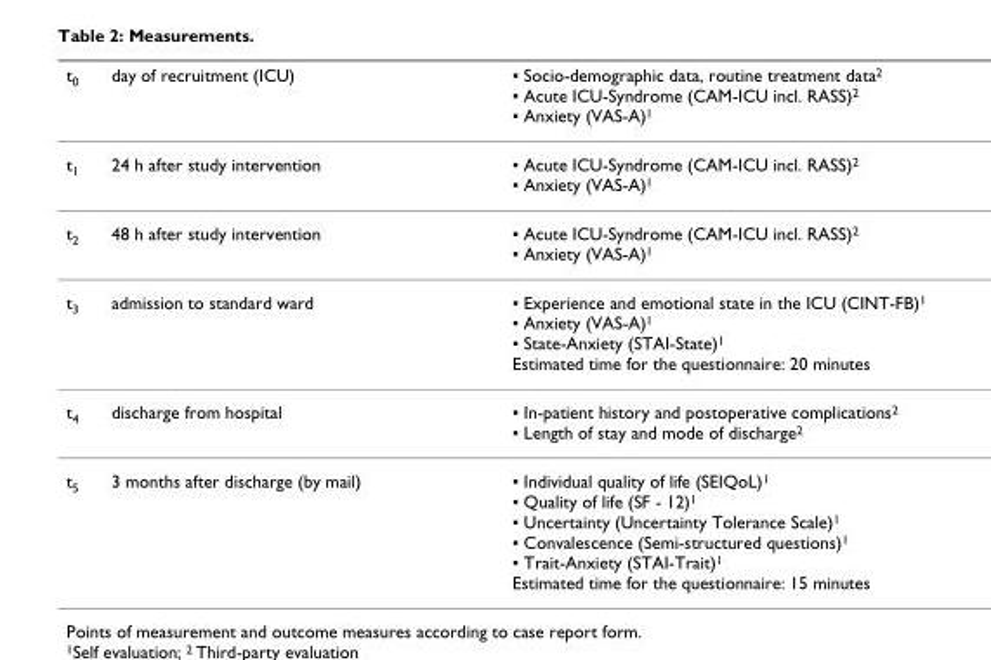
<table><thead><tr><td>t<sub>0</sub></td><td>day of recruitment (ICU)</td><td>▪ Socio-demographic data, routine treatment data<sup>2</sup> ▪ Acute ICU-Syndrome (CAM-ICU incl. RASS)<sup>2</sup> ▪ Anxiety (VAS-A)<sup>1</sup></td></tr></thead><tbody><tr><td>t<sub>1</sub></td><td>24 h after study intervention</td><td>▪ Acute ICU-Syndrome (CAM-ICU incl. RASS)<sup>2</sup> ▪ Anxiety (VAS-A)<sup>1</sup></td></tr><tr><td>t<sub>2</sub></td><td>48 h after study intervention</td><td>▪ Acute ICU-Syndrome (CAM-ICU incl. RASS)<sup>2</sup> ▪ Anxiety (VAS-A)<sup>1</sup></td></tr><tr><td>t<sub>3</sub></td><td>admission to standard ward</td><td>▪ Experience and emotional state in the ICU (CINT-FB)<sup>1</sup> ▪ Anxiety (VAS-A)<sup>1</sup> ▪ State-Anxiety (STAI-State)<sup>1</sup> Estimated time for the questionnaire: 20 minutes</td></tr><tr><td>t<sub>4</sub></td><td>discharge from hospital</td><td>▪ In-patient history and postoperative complications<sup>2</sup> ▪ Length of stay and mode of discharge<sup>2</sup></td></tr><tr><td>t<sub>5</sub></td><td>3 months after discharge (by mail)</td><td>▪ Individual quality of life (SEIQoL)<sup>1</sup> ▪ Quality of life (SF - 12)<sup>1</sup> ▪ Uncertainty (Uncertainty Tolerance Scale)<sup>1</sup> ▪ Convalescence (Semi-structured questions)<sup>1</sup> ▪ Trait-Anxiety (STAI-Trait)<sup>1</sup> Estimated time for the questionnaire: 15 minutes</td></tr></tbody></table>